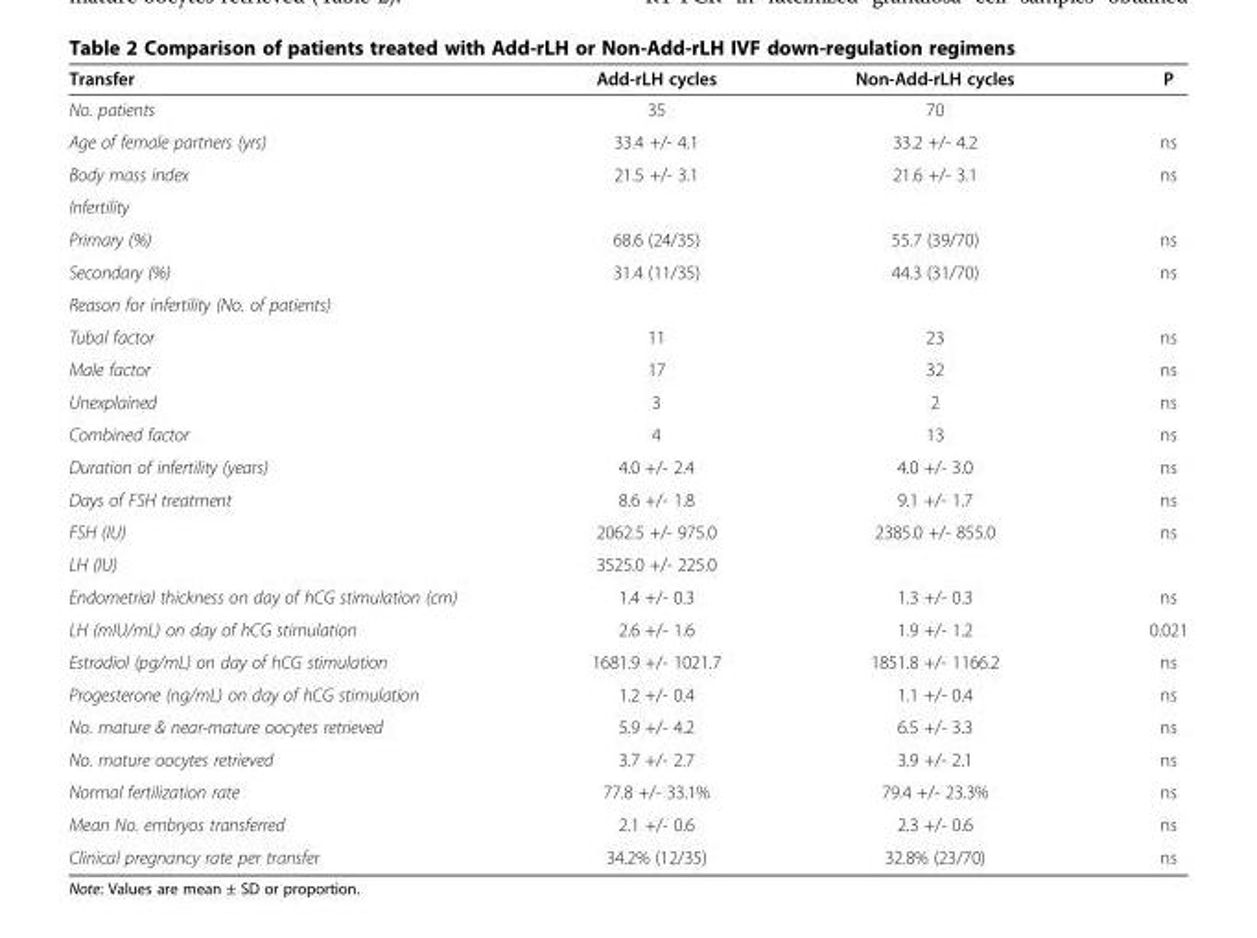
<table><thead><tr><td>Transfer</td><td>Add-rLH cycles</td><td>Non-Add-rLH cycles</td><td>P</td></tr></thead><tbody><tr><td>No. patients</td><td>35</td><td>70</td><td></td></tr><tr><td>Age of female partners (yrs)</td><td>33.4 +/- 4.1</td><td>33.2 +/- 4.2</td><td>ns</td></tr><tr><td>Body mass index</td><td>21.5 +/- 3.1</td><td>21.6 +/- 3.1</td><td>ns</td></tr><tr><td colspan="4">Infertility</td></tr><tr><td>Primary (%)</td><td>68.6 (24/35)</td><td>55.7 (39/70)</td><td>ns</td></tr><tr><td>Secondary (%)</td><td>31.4 (11/35)</td><td>44.3 (31/70)</td><td>ns</td></tr><tr><td colspan="4">Reason for infertility (No. of patients)</td></tr><tr><td>Tubal factor</td><td>11</td><td>23</td><td>ns</td></tr><tr><td>Male factor</td><td>17</td><td>32</td><td>ns</td></tr><tr><td>Unexplained</td><td>3</td><td>2</td><td>ns</td></tr><tr><td>Combined factor</td><td>4</td><td>13</td><td>ns</td></tr><tr><td>Duration of infertility (years)</td><td>4.0 +/- 2.4</td><td>4.0 +/- 3.0</td><td>ns</td></tr><tr><td>Days of FSH treatment</td><td>8.6 +/- 1.8</td><td>9.1 +/- 1.7</td><td>ns</td></tr><tr><td>FSH (IU)</td><td>2062.5 +/- 975.0</td><td>2385.0 +/- 855.0</td><td>ns</td></tr><tr><td>LH (IU)</td><td>3525.0 +/- 225.0</td><td></td><td></td></tr><tr><td>Endometrial thickness on day of hCG stimulation (cm)</td><td>1.4 +/- 0.3</td><td>1.3 +/- 0.3</td><td>ns</td></tr><tr><td>LH (mIU/mL) on day of hCG stimulation</td><td>2.6 +/- 1.6</td><td>1.9 +/- 1.2</td><td>0.021</td></tr><tr><td>Estradiol (pg/mL) on day of hCG stimulation</td><td>1681.9 +/- 1021.7</td><td>1851.8 +/- 1166.2</td><td>ns</td></tr><tr><td>Progesterone (ng/mL) on day of hCG stimulation</td><td>1.2 +/- 0.4</td><td>1.1 +/- 0.4</td><td>ns</td></tr><tr><td>No. mature &amp; near-mature oocytes retrieved</td><td>5.9 +/- 4.2</td><td>6.5 +/- 3.3</td><td>ns</td></tr><tr><td>No. mature oocytes retrieved</td><td>3.7 +/- 2.7</td><td>3.9 +/- 2.1</td><td>ns</td></tr><tr><td>Normal fertilization rate</td><td>77.8 +/- 33.1%</td><td>79.4 +/- 23.3%</td><td>ns</td></tr><tr><td>Mean No. embryos transferred</td><td>2.1 +/- 0.6</td><td>2.3 +/- 0.6</td><td>ns</td></tr><tr><td>Clinical pregnancy rate per transfer</td><td>34.2% (12/35)</td><td>32.8% (23/70)</td><td>ns</td></tr></tbody></table>